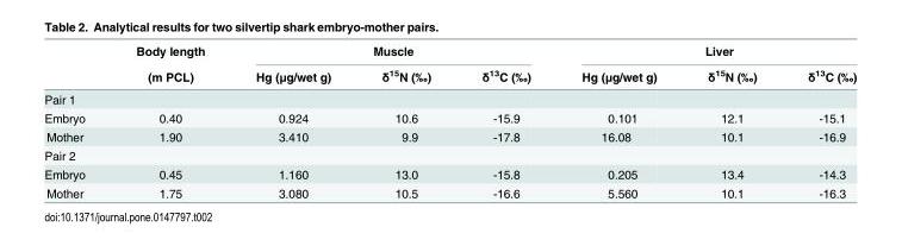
<table><thead><tr><td rowspan="2"></td><td rowspan="2">Body length (m PCL)</td><td colspan="3">Muscle</td><td colspan="3">Liver</td></tr><tr><td>Hg (μg/wet g)</td><td>δ<sup>15</sup>N (‰)</td><td>δ<sup>13</sup>C (‰)</td><td>Hg (μg/wet g)</td><td>δ<sup>15</sup>N (‰)</td><td>δ<sup>13</sup>C (‰)</td></tr></thead><tbody><tr><td colspan="8">Pair 1</td></tr><tr><td>Embryo</td><td>0.40</td><td>0.924</td><td>10.6</td><td>-15.9</td><td>0.101</td><td>12.1</td><td>-15.1</td></tr><tr><td>Mother</td><td>1.90</td><td>3.410</td><td>9.9</td><td>-17.8</td><td>16.08</td><td>10.1</td><td>-16.9</td></tr><tr><td colspan="8">Pair 2</td></tr><tr><td>Embryo</td><td>0.45</td><td>1.160</td><td>13.0</td><td>-15.8</td><td>0.205</td><td>13.4</td><td>-14.3</td></tr><tr><td>Mother</td><td>1.75</td><td>3.080</td><td>10.5</td><td>-16.6</td><td>5.560</td><td>10.1</td><td>-16.3</td></tr></tbody></table>